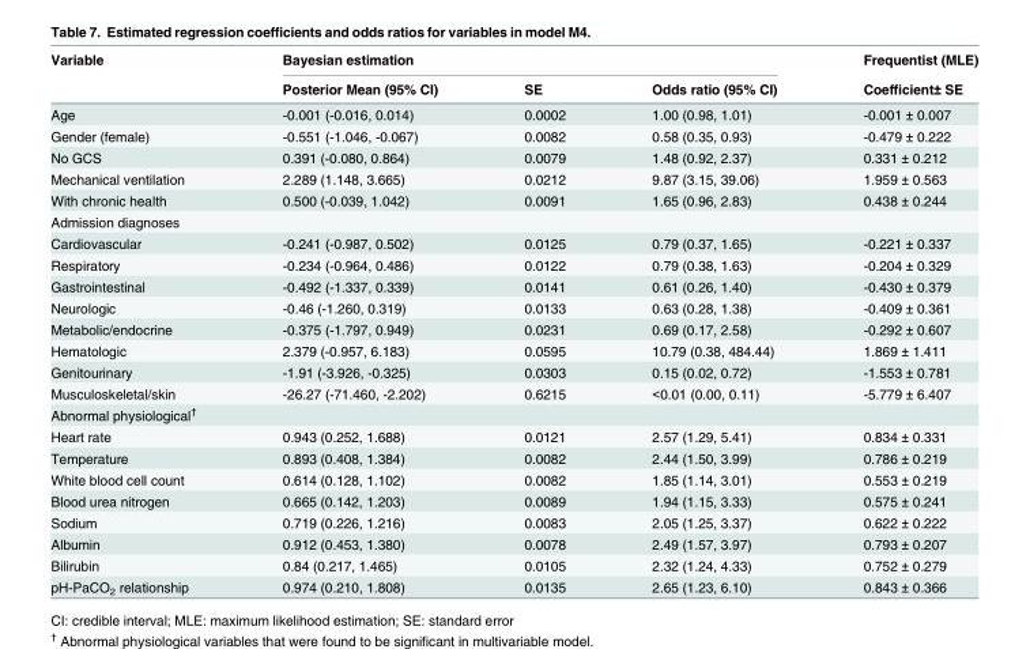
<table><thead><tr><td rowspan="2">Variable</td><td colspan="3">Bayesian estimation</td><td rowspan="2">Frequentist (MLE) Coefficient± SE</td></tr><tr><td>Posterior Mean (95% CI)</td><td>SE</td><td>Odds ratio (95% CI)</td></tr></thead><tbody><tr><td>Age</td><td>-0.001 (-0.016, 0.014)</td><td>0.0002</td><td>1.00 (0.98, 1.01)</td><td>-0.001 ± 0.007</td></tr><tr><td>Gender (female)</td><td>-0.551 (-1.046, -0.067)</td><td>0.0082</td><td>0.58 (0.35, 0.93)</td><td>-0.479 ± 0.222</td></tr><tr><td>No GCS</td><td>0.391 (-0.080, 0.864)</td><td>0.0079</td><td>1.48 (0.92, 2.37)</td><td>0.331 ± 0.212</td></tr><tr><td>Mechanical ventilation</td><td>2.289 (1.148, 3.665)</td><td>0.0212</td><td>9.87 (3.15, 39.06)</td><td>1.959 ± 0.563</td></tr><tr><td>With chronic health</td><td>0.500 (-0.039, 1.042)</td><td>0.0091</td><td>1.65 (0.96, 2.83)</td><td>0.438 ± 0.244</td></tr><tr><td colspan="5">Admission diagnoses</td></tr><tr><td>Cardiovascular</td><td>-0.241 (-0.987, 0.502)</td><td>0.0125</td><td>0.79 (0.37, 1.65)</td><td>-0.221 ± 0.337</td></tr><tr><td>Respiratory</td><td>-0.234 (-0.964, 0.486)</td><td>0.0122</td><td>0.79 (0.38, 1.63)</td><td>-0.204 ± 0.329</td></tr><tr><td>Gastrointestinal</td><td>-0.492 (-1.337, 0.339)</td><td>0.0141</td><td>0.61 (0.26, 1.40)</td><td>-0.430 ± 0.379</td></tr><tr><td>Neurologic</td><td>-0.46 (-1.260, 0.319)</td><td>0.0133</td><td>0.63 (0.28, 1.38)</td><td>-0.409 ± 0.361</td></tr><tr><td>Metabolic/endocrine</td><td>-0.375 (-1.797, 0.949)</td><td>0.0231</td><td>0.69 (0.17, 2.58)</td><td>-0.292 ± 0.607</td></tr><tr><td>Hematologic</td><td>2.379 (-0.957, 6.183)</td><td>0.0595</td><td>10.79 (0.38, 484.44)</td><td>1.869 ± 1.411</td></tr><tr><td>Genitourinary</td><td>-1.91 (-3.926, -0.325)</td><td>0.0303</td><td>0.15 (0.02, 0.72)</td><td>-1.553 ± 0.781</td></tr><tr><td>Musculoskeletal/skin</td><td>-26.27 (-71.460, -2.202)</td><td>0.6215</td><td>&lt;0.01 (0.00, 0.11)</td><td>-5.779 ± 6.407</td></tr><tr><td colspan="5">Abnormal physiological<sup>†</sup></td></tr><tr><td>Heart rate</td><td>0.943 (0.252, 1.688)</td><td>0.0121</td><td>2.57 (1.29, 5.41)</td><td>0.834 ± 0.331</td></tr><tr><td>Temperature</td><td>0.893 (0.408, 1.384)</td><td>0.0082</td><td>2.44 (1.50, 3.99)</td><td>0.786 ± 0.219</td></tr><tr><td>White blood cell count</td><td>0.614 (0.128, 1.102)</td><td>0.0082</td><td>1.85 (1.14, 3.01)</td><td>0.553 ± 0.219</td></tr><tr><td>Blood urea nitrogen</td><td>0.665 (0.142, 1.203)</td><td>0.0089</td><td>1.94 (1.15, 3.33)</td><td>0.575 ± 0.241</td></tr><tr><td>Sodium</td><td>0.719 (0.226, 1.216)</td><td>0.0083</td><td>2.05 (1.25, 3.37)</td><td>0.622 ± 0.222</td></tr><tr><td>Albumin</td><td>0.912 (0.453, 1.380)</td><td>0.0078</td><td>2.49 (1.57, 3.97)</td><td>0.793 ± 0.207</td></tr><tr><td>Bilirubin</td><td>0.84 (0.217, 1.465)</td><td>0.0105</td><td>2.32 (1.24, 4.33)</td><td>0.752 ± 0.279</td></tr><tr><td>pH-PaCO<sub>2</sub> relationship</td><td>0.974 (0.210, 1.808)</td><td>0.0135</td><td>2.65 (1.23, 6.10)</td><td>0.843 ± 0.366</td></tr></tbody></table>